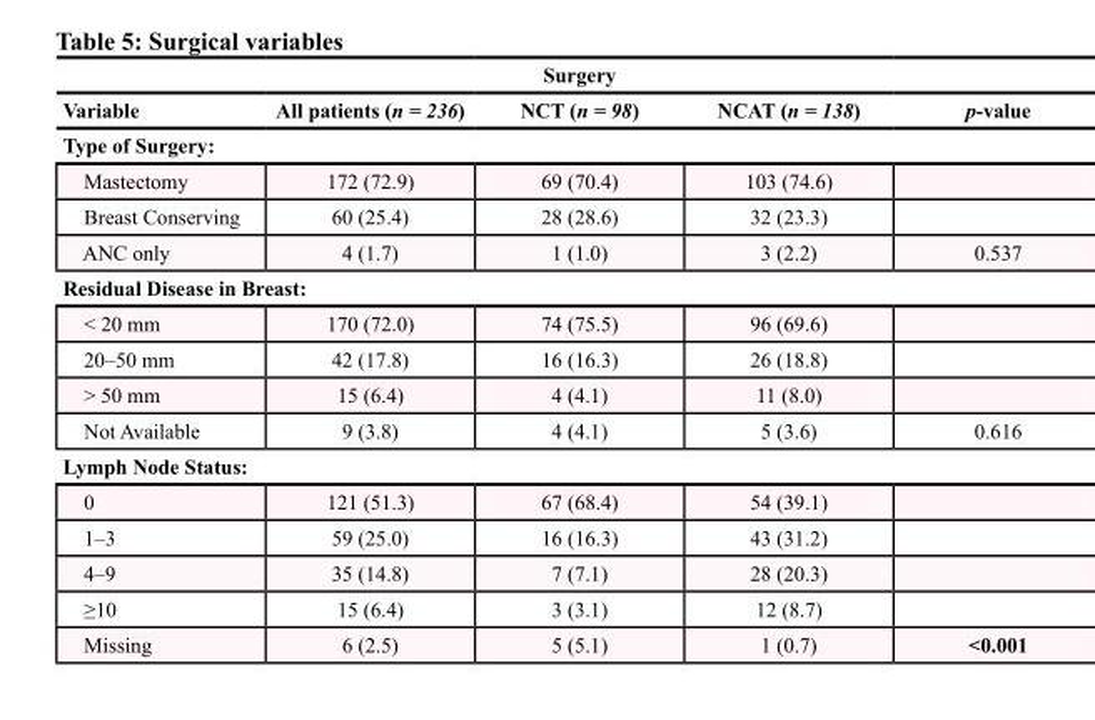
<table><thead><tr><td colspan="5">Surgery</td></tr><tr><td>Variable</td><td>All patients (n = 236)</td><td>NCT (n = 98)</td><td>NCAT (n = 138)</td><td>p-value</td></tr></thead><tbody><tr><td colspan="5">Type of Surgery:</td></tr><tr><td>Mastectomy</td><td>172 (72.9)</td><td>69 (70.4)</td><td>103 (74.6)</td><td></td></tr><tr><td>Breast Conserving</td><td>60 (25.4)</td><td>28 (28.6)</td><td>32 (23.3)</td><td></td></tr><tr><td>ANC only</td><td>4 (1.7)</td><td>1 (1.0)</td><td>3 (2.2)</td><td>0.537</td></tr><tr><td colspan="5">Residual Disease in Breast:</td></tr><tr><td>&lt; 20 mm</td><td>170 (72.0)</td><td>74 (75.5)</td><td>96 (69.6)</td><td></td></tr><tr><td>20–50 mm</td><td>42 (17.8)</td><td>16 (16.3)</td><td>26 (18.8)</td><td></td></tr><tr><td>&gt; 50 mm</td><td>15 (6.4)</td><td>4 (4.1)</td><td>11 (8.0)</td><td></td></tr><tr><td>Not Available</td><td>9 (3.8)</td><td>4 (4.1)</td><td>5 (3.6)</td><td>0.616</td></tr><tr><td colspan="5">Lymph Node Status:</td></tr><tr><td>0</td><td>121 (51.3)</td><td>67 (68.4)</td><td>54 (39.1)</td><td></td></tr><tr><td>1–3</td><td>59 (25.0)</td><td>16 (16.3)</td><td>43 (31.2)</td><td></td></tr><tr><td>4–9</td><td>35 (14.8)</td><td>7 (7.1)</td><td>28 (20.3)</td><td></td></tr><tr><td>≥10</td><td>15 (6.4)</td><td>3 (3.1)</td><td>12 (8.7)</td><td></td></tr><tr><td>Missing</td><td>6 (2.5)</td><td>5 (5.1)</td><td>1 (0.7)</td><td>&lt;0.001</td></tr></tbody></table>